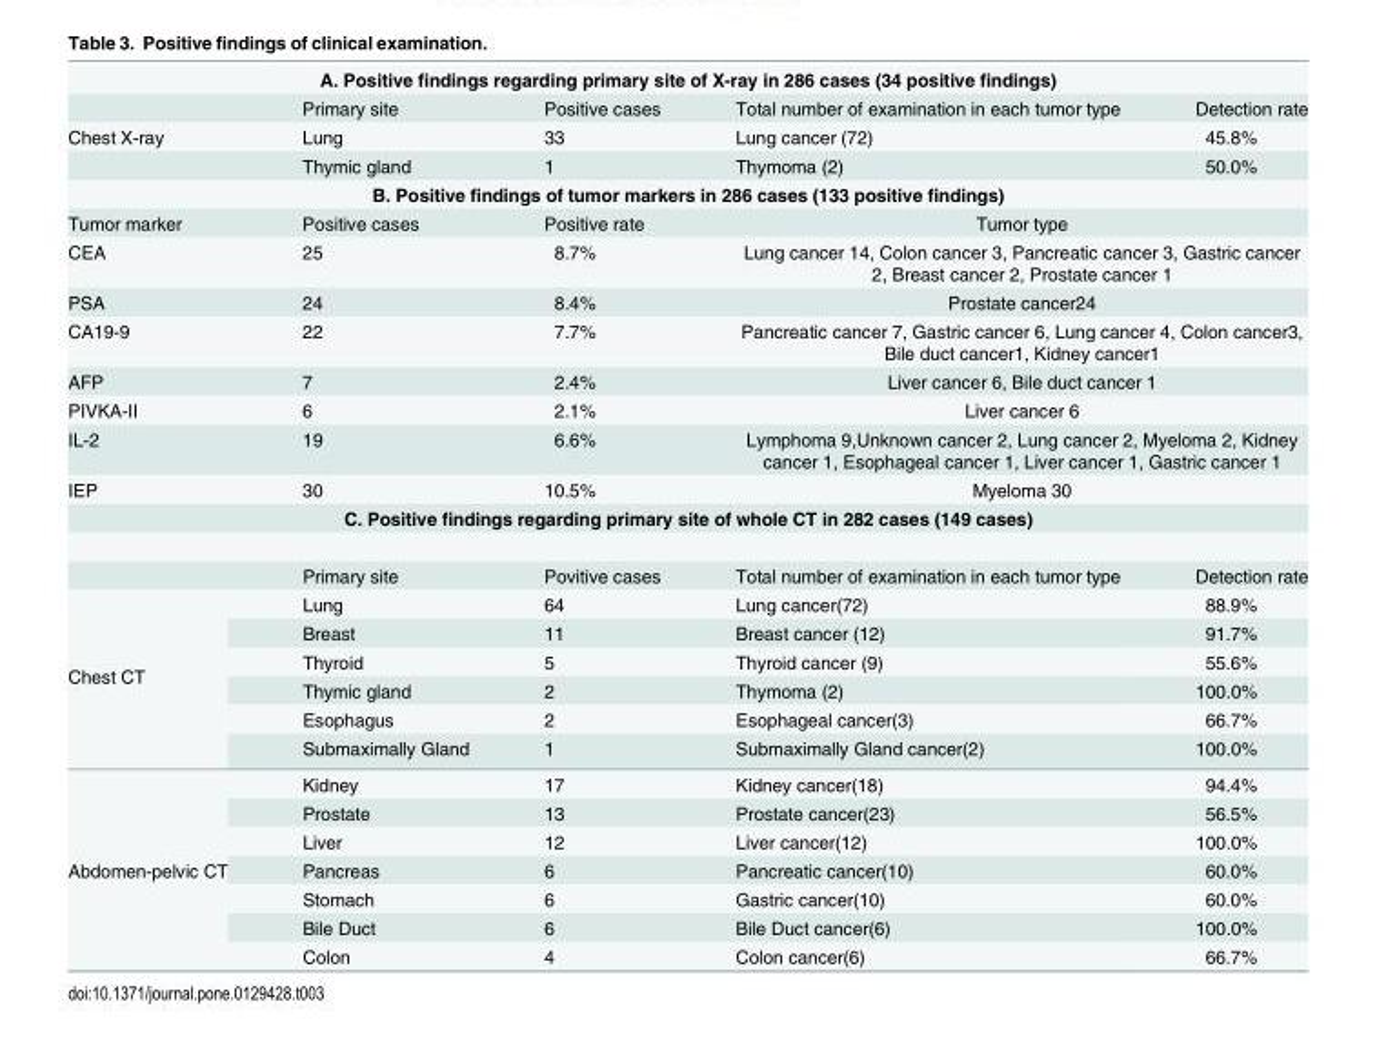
<table><tbody><tr><td colspan="5">A. Positive findings regarding primary site of X-ray in 286 cases (34 positive findings)</td></tr><tr><td></td><td>Primary site</td><td>Positive cases</td><td>Total number of examination in each tumor type</td><td>Detection rate</td></tr><tr><td rowspan="2">Chest X-ray</td><td>Lung</td><td>33</td><td>Lung cancer (72)</td><td>45.8%</td></tr><tr><td>Thymic gland</td><td>1</td><td>Thymoma (2)</td><td>50.0%</td></tr><tr><td colspan="5">B. Positive findings of tumor markers in 286 cases (133 positive findings)</td></tr><tr><td>Tumor marker</td><td>Positive cases</td><td>Positive rate</td><td colspan="2">Tumor type</td></tr><tr><td>CEA</td><td>25</td><td>8.7%</td><td colspan="2">Lung cancer 14, Colon cancer 3, Pancreatic cancer 3, Gastric cancer 2, Breast cancer 2, Prostate cancer 1</td></tr><tr><td>PSA</td><td>24</td><td>8.4%</td><td colspan="2">Prostate cancer24</td></tr><tr><td>CA19-9</td><td>22</td><td>7.7%</td><td colspan="2">Pancreatic cancer 7, Gastric cancer 6, Lung cancer 4, Colon cancer3, Bile duct cancer1, Kidney cancer1</td></tr><tr><td>AFP</td><td>7</td><td>2.4%</td><td colspan="2">Liver cancer 6, Bile duct cancer 1</td></tr><tr><td>PIVKA-Ⅱ</td><td>6</td><td>2.1%</td><td colspan="2">Liver cancer 6</td></tr><tr><td>IL-2</td><td>19</td><td>6.6%</td><td colspan="2">Lymphoma 9,Unknown cancer 2, Lung cancer 2, Myeloma 2, Kidney cancer 1, Esophageal cancer 1, Liver cancer 1, Gastric cancer 1</td></tr><tr><td>IEP</td><td>30</td><td>10.5%</td><td colspan="2">Myeloma 30</td></tr><tr><td colspan="5">C. Positive findings regarding primary site of whole CT in 282 cases (149 cases)</td></tr><tr><td></td><td>Primary site</td><td>Povitive cases</td><td>Total number of examination in each tumor type</td><td>Detection rate</td></tr><tr><td rowspan="6">Chest CT</td><td>Lung</td><td>64</td><td>Lung cancer(72)</td><td>88.9%</td></tr><tr><td>Breast</td><td>11</td><td>Breast cancer (12)</td><td>91.7%</td></tr><tr><td>Thyroid</td><td>5</td><td>Thyroid cancer (9)</td><td>55.6%</td></tr><tr><td>Thymic gland</td><td>2</td><td>Thymoma (2)</td><td>100.0%</td></tr><tr><td>Esophagus</td><td>2</td><td>Esophageal cancer(3)</td><td>66.7%</td></tr><tr><td>Submaximally Gland</td><td>1</td><td>Submaximally Gland cancer(2)</td><td>100.0%</td></tr><tr><td rowspan="7">Abdomen-pelvic CT</td><td>Kidney</td><td>17</td><td>Kidney cancer(18)</td><td>94.4%</td></tr><tr><td>Prostate</td><td>13</td><td>Prostate cancer(23)</td><td>56.5%</td></tr><tr><td>Liver</td><td>12</td><td>Liver cancer(12)</td><td>100.0%</td></tr><tr><td>Pancreas</td><td>6</td><td>Pancreatic cancer(10)</td><td>60.0%</td></tr><tr><td>Stomach</td><td>6</td><td>Gastric cancer(10)</td><td>60.0%</td></tr><tr><td>Bile Duct</td><td>6</td><td>Bile Duct cancer(6)</td><td>100.0%</td></tr><tr><td>Colon</td><td>4</td><td>Colon cancer(6)</td><td>66.7%</td></tr></tbody></table>